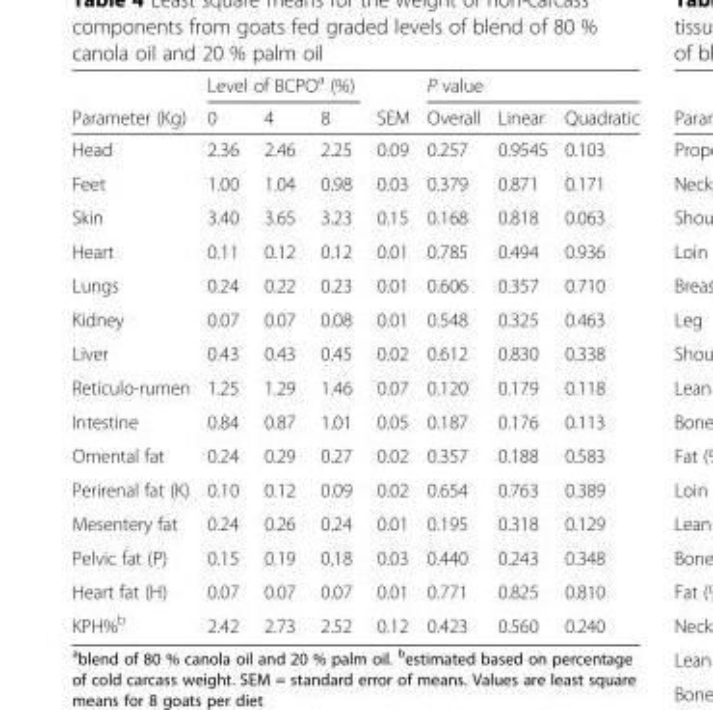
<table><thead><tr><td rowspan="2">Parameter (Kg)</td><td colspan="3">Level of BCPO<sup>a</sup> (%)</td><td rowspan="2">SEM</td><td colspan="3">P value</td></tr><tr><td>0</td><td>4</td><td>8</td><td>Overall</td><td>Linear</td><td>Quadratic</td></tr></thead><tbody><tr><td>Head</td><td>2.36</td><td>2.46</td><td>2.25</td><td>0.09</td><td>0.257</td><td>0.9545</td><td>0.103</td></tr><tr><td>Feet</td><td>1.00</td><td>1.04</td><td>0.98</td><td>0.03</td><td>0.379</td><td>0.871</td><td>0.171</td></tr><tr><td>Skin</td><td>3.40</td><td>3.65</td><td>3.23</td><td>0.15</td><td>0.168</td><td>0.818</td><td>0.063</td></tr><tr><td>Heart</td><td>0.11</td><td>0.12</td><td>0.12</td><td>0.01</td><td>0.785</td><td>0.494</td><td>0.936</td></tr><tr><td>Lungs</td><td>0.24</td><td>0.22</td><td>0.23</td><td>0.01</td><td>0.606</td><td>0.357</td><td>0.710</td></tr><tr><td>Kidney</td><td>0.07</td><td>0.07</td><td>0.08</td><td>0.01</td><td>0.548</td><td>0.325</td><td>0.463</td></tr><tr><td>Liver</td><td>0.43</td><td>0.43</td><td>0.45</td><td>0.02</td><td>0.612</td><td>0.830</td><td>0.338</td></tr><tr><td>Reticulo-rumen</td><td>1.25</td><td>1.29</td><td>1.46</td><td>0.07</td><td>0.120</td><td>0.179</td><td>0.118</td></tr><tr><td>Intestine</td><td>0.84</td><td>0.87</td><td>1.01</td><td>0.05</td><td>0.187</td><td>0.176</td><td>0.113</td></tr><tr><td>Omental fat</td><td>0.24</td><td>0.29</td><td>0.27</td><td>0.02</td><td>0.357</td><td>0.188</td><td>0.583</td></tr><tr><td>Perirenal fat (K)</td><td>0.10</td><td>0.12</td><td>0.09</td><td>0.02</td><td>0.654</td><td>0.763</td><td>0.389</td></tr><tr><td>Mesentery fat</td><td>0.24</td><td>0.26</td><td>0.24</td><td>0.01</td><td>0.195</td><td>0.318</td><td>0.129</td></tr><tr><td>Pelvic fat (P)</td><td>0.15</td><td>0.19</td><td>0.18</td><td>0.03</td><td>0.440</td><td>0.243</td><td>0.348</td></tr><tr><td>Heart fat (H)</td><td>0.07</td><td>0.07</td><td>0.07</td><td>0.01</td><td>0.771</td><td>0.825</td><td>0.810</td></tr><tr><td>KPH%<sup>b</sup></td><td>2.42</td><td>2.73</td><td>2.52</td><td>0.12</td><td>0.423</td><td>0.560</td><td>0.240</td></tr></tbody></table>